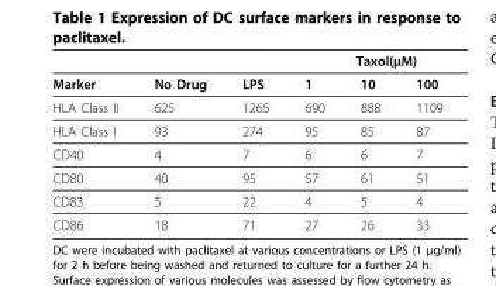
<table><thead><tr><td rowspan="2">Marker</td><td rowspan="2">No Drug</td><td rowspan="2">LPS</td><td colspan="3">Taxol(μM)</td></tr><tr><td>1</td><td>10</td><td>100</td></tr></thead><tbody><tr><td>HLA Class II</td><td>625</td><td>1265</td><td>690</td><td>888</td><td>1109</td></tr><tr><td>HLA Class I</td><td>93</td><td>274</td><td>95</td><td>85</td><td>87</td></tr><tr><td>CD40</td><td>4</td><td>7</td><td>6</td><td>6</td><td>7</td></tr><tr><td>CD80</td><td>40</td><td>95</td><td>57</td><td>61</td><td>51</td></tr><tr><td>CD83</td><td>5</td><td>22</td><td>4</td><td>5</td><td>4</td></tr><tr><td>CD86</td><td>18</td><td>71</td><td>27</td><td>26</td><td>33</td></tr></tbody></table>